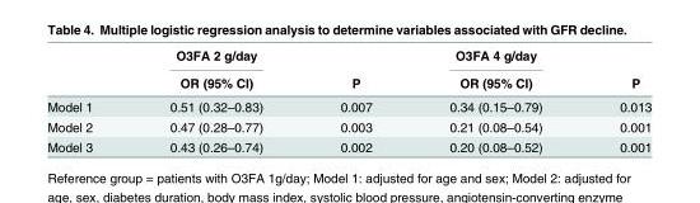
<table><thead><tr><td rowspan="2"></td><td rowspan="2">O3FA 2 g/day OR (95% CI)</td><td rowspan="2">P</td><td rowspan="2">O3FA 4 g/day OR (95% CI)</td><td rowspan="2">P</td></tr><tr></tr></thead><tbody><tr><td>Model 1</td><td>0.51 (0.32–0.83)</td><td>0.007</td><td>0.34 (0.15–0.79)</td><td>0.013</td></tr><tr><td>Model 2</td><td>0.47 (0.28–0.77)</td><td>0.003</td><td>0.21 (0.08–0.54)</td><td>0.001</td></tr><tr><td>Model 3</td><td>0.43 (0.26–0.74)</td><td>0.002</td><td>0.20 (0.08–0.52)</td><td>0.001</td></tr></tbody></table>